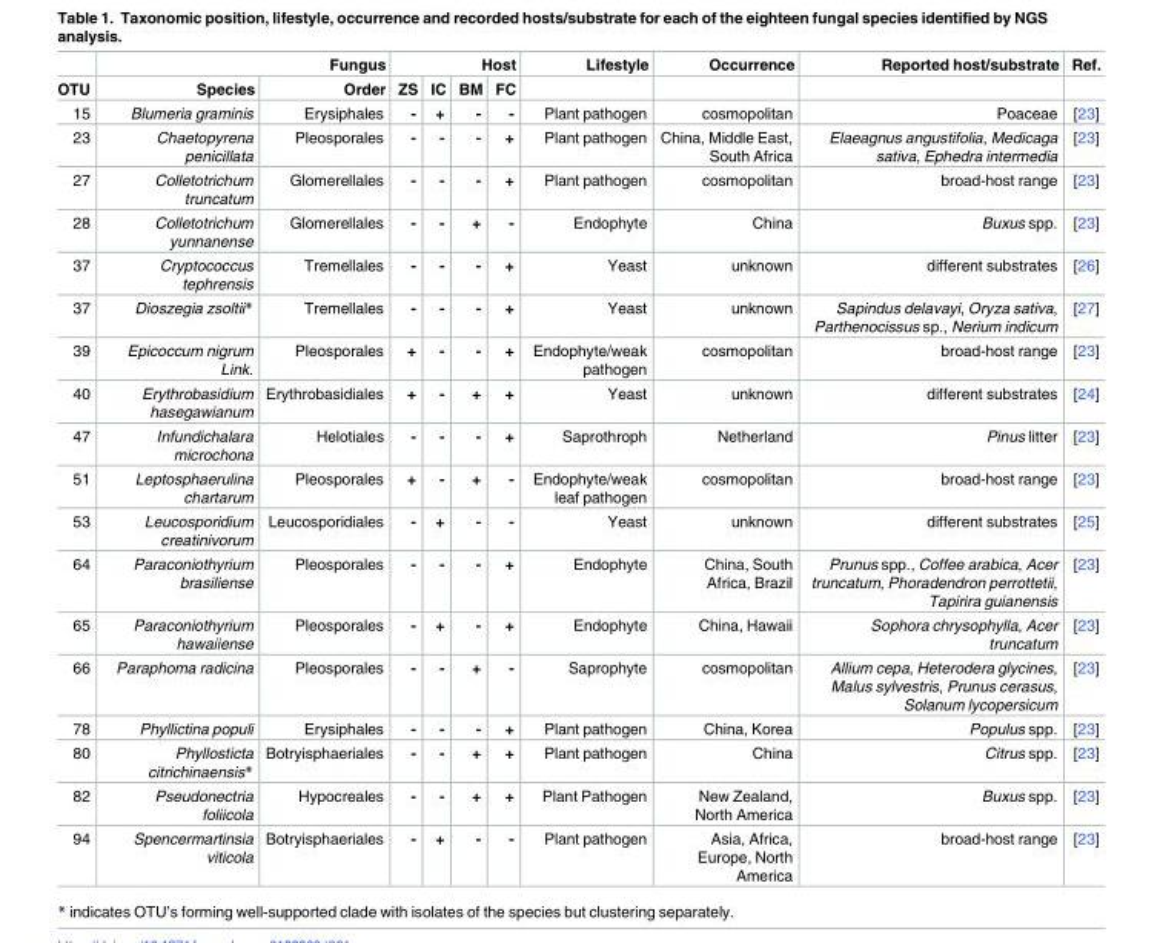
<table><thead><tr><td rowspan="2">OTU</td><td colspan="2">Fungus</td><td colspan="4">Host</td><td rowspan="2">Lifestyle</td><td rowspan="2">Occurrence</td><td rowspan="2">Reported host/substrate</td><td rowspan="2">Ref.</td></tr><tr><td>Species</td><td>Order</td><td>ZS</td><td>IC</td><td>BM</td><td>FC</td></tr></thead><tbody><tr><td>15</td><td>Blumeria graminis</td><td>Erysiphales</td><td>-</td><td>+</td><td>-</td><td>-</td><td>Plant pathogen</td><td>cosmopolitan</td><td>Poaceae</td><td>[23]</td></tr><tr><td>23</td><td>Chaetopyrena penicillata</td><td>Pleosporales</td><td>-</td><td>-</td><td>-</td><td>+</td><td>Plant pathogen</td><td>China, Middle East, South Africa</td><td>Elaeagnus angustifolia, Medicaga sativa, Ephedra intermedia</td><td>[23]</td></tr><tr><td>27</td><td>Colletotrichum truncatum</td><td>Glomerellales</td><td>-</td><td>-</td><td>-</td><td>+</td><td>Plant pathogen</td><td>cosmopolitan</td><td>broad-host range</td><td>[23]</td></tr><tr><td>28</td><td>Colletotrichum yunnanense</td><td>Glomerellales</td><td>-</td><td>-</td><td>+</td><td>-</td><td>Endophyte</td><td>China</td><td>Buxus spp.</td><td>[23]</td></tr><tr><td>37</td><td>Cryptococcus tephrensis</td><td>Tremellales</td><td>-</td><td>-</td><td>-</td><td>+</td><td>Yeast</td><td>unknown</td><td>different substrates</td><td>[26]</td></tr><tr><td>37</td><td>Dioszegia zsoltii*</td><td>Tremellales</td><td>-</td><td>-</td><td>-</td><td>+</td><td>Yeast</td><td>unknown</td><td>Sapindus delavayi, Oryza sativa, Parthenocissus sp., Nerium indicum</td><td>[27]</td></tr><tr><td>39</td><td>Epicoccum nigrum Link.</td><td>Pleosporales</td><td>+</td><td>-</td><td>-</td><td>+</td><td>Endophyte/weak pathogen</td><td>cosmopolitan</td><td>broad-host range</td><td>[23]</td></tr><tr><td>40</td><td>Erythrobasidium hasegawianum</td><td>Erythrobasidiales</td><td>+</td><td>-</td><td>+</td><td>+</td><td>Yeast</td><td>unknown</td><td>different substrates</td><td>[24]</td></tr><tr><td>47</td><td>Infundichalara microchona</td><td>Helotiales</td><td>-</td><td>-</td><td>-</td><td>+</td><td>Saprothroph</td><td>Netherland</td><td>Pinus litter</td><td>[23]</td></tr><tr><td>51</td><td>Leptosphaerulina chartarum</td><td>Pleosporales</td><td>+</td><td>-</td><td>+</td><td>-</td><td>Endophyte/weak leaf pathogen</td><td>cosmopolitan</td><td>broad-host range</td><td>[23]</td></tr><tr><td>53</td><td>Leucosporidium creatinivorum</td><td>Leucosporidiales</td><td>-</td><td>+</td><td>-</td><td>-</td><td>Yeast</td><td>unknown</td><td>different substrates</td><td>[25]</td></tr><tr><td>64</td><td>Paraconiothyrium brasiliense</td><td>Pleosporales</td><td>-</td><td>-</td><td>-</td><td>+</td><td>Endophyte</td><td>China, South Africa, Brazil</td><td>Prunus spp., Coffee arabica, Acer truncatum, Phoradendron perrottetii, Tapirira guianensis</td><td>[23]</td></tr><tr><td>65</td><td>Paraconiothyrium hawaiiense</td><td>Pleosporales</td><td>-</td><td>+</td><td>-</td><td>+</td><td>Endophyte</td><td>China, Hawaii</td><td>Sophora chrysophylla, Acer truncatum</td><td>[23]</td></tr><tr><td>66</td><td>Paraphoma radicina</td><td>Pleosporales</td><td>-</td><td>-</td><td>+</td><td>-</td><td>Saprophyte</td><td>cosmopolitan</td><td>Allium cepa, Heterodera glycines, Malus sylvestris, Prunus cerasus, Solanum lycopersicum</td><td>[23]</td></tr><tr><td>78</td><td>Phyllictina populi</td><td>Erysiphales</td><td>-</td><td>-</td><td>-</td><td>+</td><td>Plant pathogen</td><td>China, Korea</td><td>Populus spp.</td><td>[23]</td></tr><tr><td>80</td><td>Phyllosticta citrichinaensis*</td><td>Botryisphaeriales</td><td>-</td><td>-</td><td>+</td><td>+</td><td>Plant pathogen</td><td>China</td><td>Citrus spp.</td><td>[23]</td></tr><tr><td>82</td><td>Pseudonectria foliicola</td><td>Hypocreales</td><td>-</td><td>-</td><td>+</td><td>+</td><td>Plant Pathogen</td><td>New Zealand, North America</td><td>Buxus spp.</td><td>[23]</td></tr><tr><td>94</td><td>Spencermartinsia viticola</td><td>Botryisphaeriales</td><td>-</td><td>+</td><td>-</td><td>-</td><td>Plant pathogen</td><td>Asia, Africa, Europe, North America</td><td>broad-host range</td><td>[23]</td></tr></tbody></table>